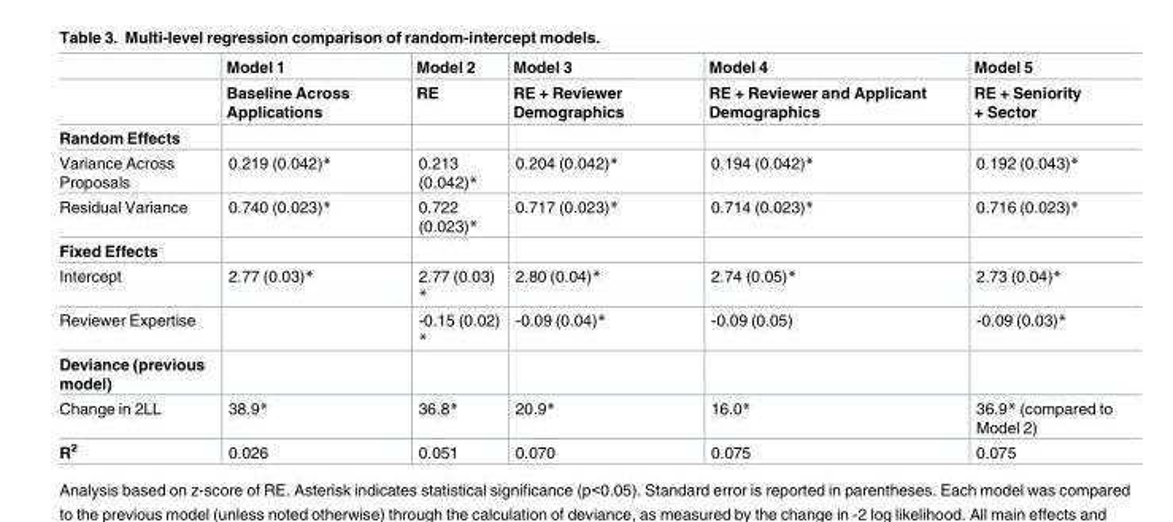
<table><thead><tr><td rowspan="2"></td><td rowspan="2">Model 1 Baseline Across Applications</td><td rowspan="2">Model 2 RE</td><td rowspan="2">Model 3 RE + Reviewer Demographics</td><td rowspan="2">Model 4 RE + Reviewer and Applicant Demographics</td><td rowspan="2">Model 5 RE + Seniority + Sector</td></tr><tr></tr></thead><tbody><tr><td colspan="6">Random Effects</td></tr><tr><td>Variance Across Proposals</td><td>0.219 (0.042)*</td><td>0.213 (0.042)*</td><td>0.204 (0.042)*</td><td>0.194 (0.042)*</td><td>0.192 (0.043)*</td></tr><tr><td>Residual Variance</td><td>0.740 (0.023)*</td><td>0.722 (0.023)*</td><td>0.717 (0.023)*</td><td>0.714 (0.023)*</td><td>0.716 (0.023)*</td></tr><tr><td colspan="6">Fixed Effects</td></tr><tr><td>Intercept</td><td>2.77 (0.03)*</td><td>2.77 (0.03) *</td><td>2.80 (0.04)*</td><td>2.74 (0.05)*</td><td>2.73 (0.04)*</td></tr><tr><td>Reviewer Expertise</td><td></td><td>-0.15 (0.02) *</td><td>-0.09 (0.04)*</td><td>-0.09 (0.05)</td><td>-0.09 (0.03)*</td></tr><tr><td colspan="6">Deviance (previous model)</td></tr><tr><td>Change in 2LL</td><td>38.9*</td><td>36.8*</td><td>20.9*</td><td>16.0*</td><td>36.9* (compared to Model 2)</td></tr><tr><td>R<sup>2</sup></td><td>0.026</td><td>0.051</td><td>0.070</td><td>0.075</td><td>0.075</td></tr></tbody></table>